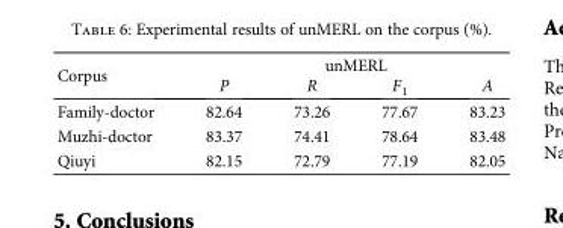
<table><thead><tr><td rowspan="2">Corpus</td><td colspan="4">unMERL</td></tr><tr><td>P</td><td>R</td><td>F<sub>1</sub></td><td>A</td></tr></thead><tbody><tr><td>Family-doctor</td><td>82.64</td><td>73.26</td><td>77.67</td><td>83.23</td></tr><tr><td>Muzhi-doctor</td><td>83.37</td><td>74.41</td><td>78.64</td><td>83.48</td></tr><tr><td>Qiuyi</td><td>82.15</td><td>72.79</td><td>77.19</td><td>82.05</td></tr></tbody></table>